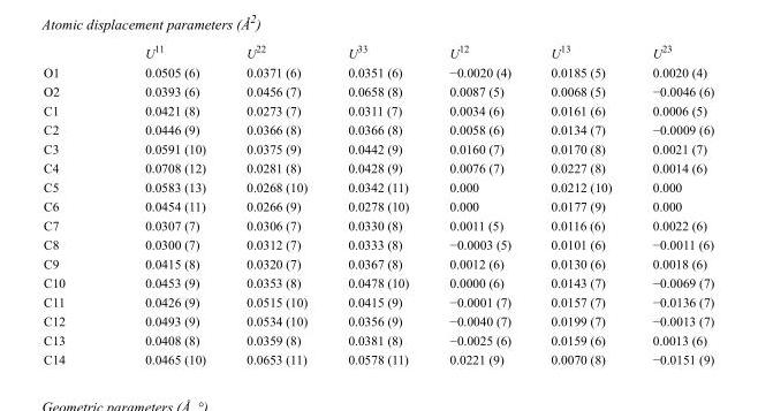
<table><thead><tr><td></td><td>U<sup>11</sup></td><td>U<sup>22</sup></td><td>U<sup>33</sup></td><td>U<sup>12</sup></td><td>U<sup>13</sup></td><td>U<sup>23</sup></td></tr></thead><tbody><tr><td>O1</td><td>0.0505 (6)</td><td>0.0371 (6)</td><td>0.0351 (6)</td><td>−0.0020 (4)</td><td>0.0185 (5)</td><td>0.0020 (4)</td></tr><tr><td>O2</td><td>0.0393 (6)</td><td>0.0456 (7)</td><td>0.0658 (8)</td><td>0.0087 (5)</td><td>0.0068 (5)</td><td>−0.0046 (6)</td></tr><tr><td>C1</td><td>0.0421 (8)</td><td>0.0273 (7)</td><td>0.0311 (7)</td><td>0.0034 (6)</td><td>0.0161 (6)</td><td>0.0006 (5)</td></tr><tr><td>C2</td><td>0.0446 (9)</td><td>0.0366 (8)</td><td>0.0366 (8)</td><td>0.0058 (6)</td><td>0.0134 (7)</td><td>−0.0009 (6)</td></tr><tr><td>C3</td><td>0.0591 (10)</td><td>0.0375 (9)</td><td>0.0442 (9)</td><td>0.0160 (7)</td><td>0.0170 (8)</td><td>0.0021 (7)</td></tr><tr><td>C4</td><td>0.0708 (12)</td><td>0.0281 (8)</td><td>0.0428 (9)</td><td>0.0076 (7)</td><td>0.0227 (8)</td><td>0.0014 (6)</td></tr><tr><td>C5</td><td>0.0583 (13)</td><td>0.0268 (10)</td><td>0.0342 (11)</td><td>0.000</td><td>0.0212 (10)</td><td>0.000</td></tr><tr><td>C6</td><td>0.0454 (11)</td><td>0.0266 (9)</td><td>0.0278 (10)</td><td>0.000</td><td>0.0177 (9)</td><td>0.000</td></tr><tr><td>C7</td><td>0.0307 (7)</td><td>0.0306 (7)</td><td>0.0330 (8)</td><td>0.0011 (5)</td><td>0.0116 (6)</td><td>0.0022 (6)</td></tr><tr><td>C8</td><td>0.0300 (7)</td><td>0.0312 (7)</td><td>0.0333 (8)</td><td>−0.0003 (5)</td><td>0.0101 (6)</td><td>−0.0011 (6)</td></tr><tr><td>C9</td><td>0.0415 (8)</td><td>0.0320 (7)</td><td>0.0367 (8)</td><td>0.0012 (6)</td><td>0.0130 (6)</td><td>0.0018 (6)</td></tr><tr><td>C10</td><td>0.0453 (9)</td><td>0.0353 (8)</td><td>0.0478 (10)</td><td>0.0000 (6)</td><td>0.0143 (7)</td><td>−0.0069 (7)</td></tr><tr><td>C11</td><td>0.0426 (9)</td><td>0.0515 (10)</td><td>0.0415 (9)</td><td>−0.0001 (7)</td><td>0.0157 (7)</td><td>−0.0136 (7)</td></tr><tr><td>C12</td><td>0.0493 (9)</td><td>0.0534 (10)</td><td>0.0356 (9)</td><td>−0.0040 (7)</td><td>0.0199 (7)</td><td>−0.0013 (7)</td></tr><tr><td>C13</td><td>0.0408 (8)</td><td>0.0359 (8)</td><td>0.0381 (8)</td><td>−0.0025 (6)</td><td>0.0159 (6)</td><td>0.0013 (6)</td></tr><tr><td>C14</td><td>0.0465 (10)</td><td>0.0653 (11)</td><td>0.0578 (11)</td><td>0.0221 (9)</td><td>0.0070 (8)</td><td>−0.0151 (9)</td></tr></tbody></table>